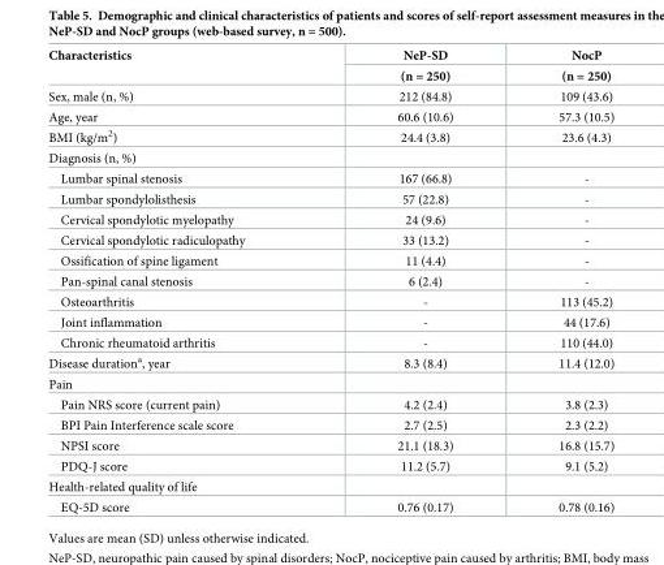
<table><thead><tr><td rowspan="2">Characteristics</td><td rowspan="2">NeP-SD (n = 250)</td><td rowspan="2">NocP (n = 250)</td></tr><tr></tr></thead><tbody><tr><td>Sex, male (n, %)</td><td>212 (84.8)</td><td>109 (43.6)</td></tr><tr><td>Age, year</td><td>60.6 (10.6)</td><td>57.3 (10.5)</td></tr><tr><td>BMI (kg/m<sup>2</sup>)</td><td>24.4 (3.8)</td><td>23.6 (4.3)</td></tr><tr><td colspan="3">Diagnosis (n, %)</td></tr><tr><td>Lumbar spinal stenosis</td><td>167 (66.8)</td><td>-</td></tr><tr><td>Lumbar spondylolisthesis</td><td>57 (22.8)</td><td>-</td></tr><tr><td>Cervical spondylotic myelopathy</td><td>24 (9.6)</td><td>-</td></tr><tr><td>Cervical spondylotic radiculopathy</td><td>33 (13.2)</td><td>-</td></tr><tr><td>Ossification of spine ligament</td><td>11 (4.4)</td><td>-</td></tr><tr><td>Pan-spinal canal stenosis</td><td>6 (2.4)</td><td>-</td></tr><tr><td>Osteoarthritis</td><td>-</td><td>113 (45.2)</td></tr><tr><td>Joint inflammation</td><td>-</td><td>44 (17.6)</td></tr><tr><td>Chronic rheumatoid arthritis</td><td>-</td><td>110 (44.0)</td></tr><tr><td>Disease duration<sup>a</sup>, year</td><td>8.3 (8.4)</td><td>11.4 (12.0)</td></tr><tr><td colspan="3">Pain</td></tr><tr><td>Pain NRS score (current pain)</td><td>4.2 (2.4)</td><td>3.8 (2.3)</td></tr><tr><td>BPI Pain Interference scale score</td><td>2.7 (2.5)</td><td>2.3 (2.2)</td></tr><tr><td>NPSI score</td><td>21.1 (18.3)</td><td>16.8 (15.7)</td></tr><tr><td>PDQ-J score</td><td>11.2 (5.7)</td><td>9.1 (5.2)</td></tr><tr><td colspan="3">Health-related quality of life</td></tr><tr><td>EQ-5D score</td><td>0.76 (0.17)</td><td>0.78 (0.16)</td></tr></tbody></table>